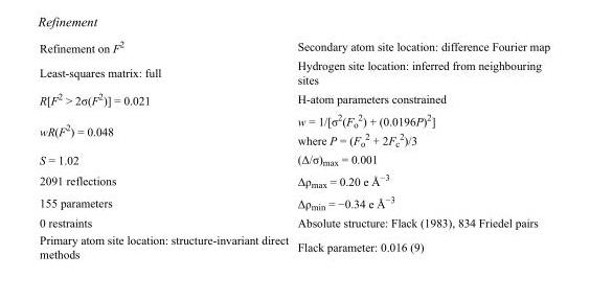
<table><tbody><tr><td>Refinement on F<sup>2</sup></td><td>Secondary atom site location: difference Fourier map</td></tr><tr><td>Least-squares matrix: full</td><td>Hydrogen site location: inferred from neighbouring sites</td></tr><tr><td>R[F<sup>2</sup> &gt; 2σ(F<sup>2</sup>)] = 0.021</td><td>H-atom parameters constrained</td></tr><tr><td>wR(F<sup>2</sup>) = 0.048</td><td>w = 1/[σ<sup>2</sup>(F<sub>o</sub> <sup>2</sup>) + (0.0196P)<sup>2</sup>] where P = (F<sub>o</sub> <sup>2</sup> + 2F<sub>c</sub> <sup>2</sup>)/3</td></tr><tr><td>S = 1.02</td><td>(Δ/σ)<sub>max</sub> = 0.001</td></tr><tr><td>2091 reflections</td><td>Δρ<sub>max</sub> = 0.20 e Å<sup>−3</sup></td></tr><tr><td>155 parameters</td><td>Δρ<sub>min</sub> = −0.34 e Å<sup>−3</sup></td></tr><tr><td>0 restraints</td><td>Absolute structure: Flack (1983), 834 Friedel pairs</td></tr><tr><td>Primary atom site location: structure-invariant direct methods</td><td>Flack parameter: 0.016 (9)</td></tr></tbody></table>